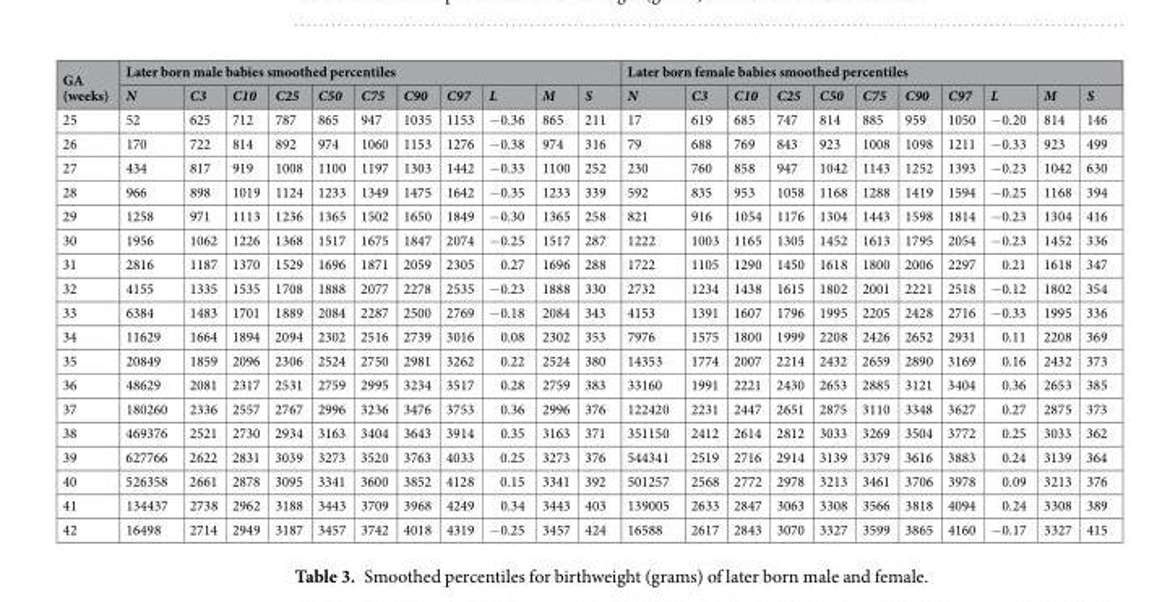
<table><thead><tr><td rowspan="2">GA (weeks)</td><td colspan="11">Later born male babies smoothed percentiles</td><td colspan="11">Later born female babies smoothed percentiles</td></tr><tr><td>N</td><td>C3</td><td>C10</td><td>C25</td><td>C50</td><td>C75</td><td>C90</td><td>C97</td><td>L</td><td>M</td><td>S</td><td>N</td><td>C3</td><td>C10</td><td>C25</td><td>C50</td><td>C75</td><td>C90</td><td>C97</td><td>L</td><td>M</td><td>S</td></tr></thead><tbody><tr><td>25</td><td>52</td><td>625</td><td>712</td><td>787</td><td>865</td><td>947</td><td>1035</td><td>1153</td><td>−0.36</td><td>865</td><td>211</td><td>17</td><td>619</td><td>685</td><td>747</td><td>814</td><td>885</td><td>959</td><td>1050</td><td>−0.20</td><td>814</td><td>146</td></tr><tr><td>26</td><td>170</td><td>722</td><td>814</td><td>892</td><td>974</td><td>1060</td><td>1153</td><td>1276</td><td>−0.38</td><td>974</td><td>316</td><td>79</td><td>688</td><td>769</td><td>843</td><td>923</td><td>1008</td><td>1098</td><td>1211</td><td>−0.33</td><td>923</td><td>499</td></tr><tr><td>27</td><td>434</td><td>817</td><td>919</td><td>1008</td><td>1100</td><td>1197</td><td>1303</td><td>1442</td><td>−0.33</td><td>1100</td><td>252</td><td>230</td><td>760</td><td>858</td><td>947</td><td>1042</td><td>1143</td><td>1252</td><td>1393</td><td>−0.23</td><td>1042</td><td>630</td></tr><tr><td>28</td><td>966</td><td>898</td><td>1019</td><td>1124</td><td>1233</td><td>1349</td><td>1475</td><td>1642</td><td>−0.35</td><td>1233</td><td>339</td><td>592</td><td>835</td><td>953</td><td>1058</td><td>1168</td><td>1288</td><td>1419</td><td>1594</td><td>−0.25</td><td>1168</td><td>394</td></tr><tr><td>29</td><td>1258</td><td>971</td><td>1113</td><td>1236</td><td>1365</td><td>1502</td><td>1650</td><td>1849</td><td>−0.30</td><td>1365</td><td>258</td><td>821</td><td>916</td><td>1054</td><td>1176</td><td>1304</td><td>1443</td><td>1598</td><td>1814</td><td>−0.23</td><td>1304</td><td>416</td></tr><tr><td>30</td><td>1956</td><td>1062</td><td>1226</td><td>1368</td><td>1517</td><td>1675</td><td>1847</td><td>2074</td><td>−0.25</td><td>1517</td><td>287</td><td>1222</td><td>1003</td><td>1165</td><td>1305</td><td>1452</td><td>1613</td><td>1795</td><td>2054</td><td>−0.23</td><td>1452</td><td>336</td></tr><tr><td>31</td><td>2816</td><td>1187</td><td>1370</td><td>1529</td><td>1696</td><td>1871</td><td>2059</td><td>2305</td><td>0.27</td><td>1696</td><td>288</td><td>1722</td><td>1105</td><td>1290</td><td>1450</td><td>1618</td><td>1800</td><td>2006</td><td>2297</td><td>0.21</td><td>1618</td><td>347</td></tr><tr><td>32</td><td>4155</td><td>1335</td><td>1535</td><td>1708</td><td>1888</td><td>2077</td><td>2278</td><td>2535</td><td>−0.23</td><td>1888</td><td>330</td><td>2732</td><td>1234</td><td>1438</td><td>1615</td><td>1802</td><td>2001</td><td>2221</td><td>2518</td><td>−0.12</td><td>1802</td><td>354</td></tr><tr><td>33</td><td>6384</td><td>1483</td><td>1701</td><td>1889</td><td>2084</td><td>2287</td><td>2500</td><td>2769</td><td>−0.18</td><td>2084</td><td>343</td><td>4153</td><td>1391</td><td>1607</td><td>1796</td><td>1995</td><td>2205</td><td>2428</td><td>2716</td><td>−0.33</td><td>1995</td><td>336</td></tr><tr><td>34</td><td>11629</td><td>1664</td><td>1894</td><td>2094</td><td>2302</td><td>2516</td><td>2739</td><td>3016</td><td>0.08</td><td>2302</td><td>353</td><td>7976</td><td>1575</td><td>1800</td><td>1999</td><td>2208</td><td>2426</td><td>2652</td><td>2931</td><td>0.11</td><td>2208</td><td>369</td></tr><tr><td>35</td><td>20849</td><td>1859</td><td>2096</td><td>2306</td><td>2524</td><td>2750</td><td>2981</td><td>3262</td><td>0.22</td><td>2524</td><td>380</td><td>14353</td><td>1774</td><td>2007</td><td>2214</td><td>2432</td><td>2659</td><td>2890</td><td>3169</td><td>0.16</td><td>2432</td><td>373</td></tr><tr><td>36</td><td>48629</td><td>2081</td><td>2317</td><td>2531</td><td>2759</td><td>2995</td><td>3234</td><td>3517</td><td>0.28</td><td>2759</td><td>383</td><td>33160</td><td>1991</td><td>2221</td><td>2430</td><td>2653</td><td>2885</td><td>3121</td><td>3404</td><td>0.36</td><td>2653</td><td>385</td></tr><tr><td>37</td><td>180260</td><td>2336</td><td>2557</td><td>2767</td><td>2996</td><td>3236</td><td>3476</td><td>3753</td><td>0.36</td><td>2996</td><td>376</td><td>122420</td><td>2231</td><td>2447</td><td>2651</td><td>2875</td><td>3110</td><td>3348</td><td>3627</td><td>0.27</td><td>2875</td><td>373</td></tr><tr><td>38</td><td>469376</td><td>2521</td><td>2730</td><td>2934</td><td>3163</td><td>3404</td><td>3643</td><td>3914</td><td>0.35</td><td>3163</td><td>371</td><td>351150</td><td>2412</td><td>2614</td><td>2812</td><td>3033</td><td>3269</td><td>3504</td><td>3772</td><td>0.25</td><td>3033</td><td>362</td></tr><tr><td>39</td><td>627766</td><td>2622</td><td>2831</td><td>3039</td><td>3273</td><td>3520</td><td>3763</td><td>4033</td><td>0.25</td><td>3273</td><td>376</td><td>544341</td><td>2519</td><td>2716</td><td>2914</td><td>3139</td><td>3379</td><td>3616</td><td>3883</td><td>0.24</td><td>3139</td><td>364</td></tr><tr><td>40</td><td>526358</td><td>2661</td><td>2878</td><td>3095</td><td>3341</td><td>3600</td><td>3852</td><td>4128</td><td>0.15</td><td>3341</td><td>392</td><td>501257</td><td>2568</td><td>2772</td><td>2978</td><td>3213</td><td>3461</td><td>3706</td><td>3978</td><td>0.09</td><td>3213</td><td>376</td></tr><tr><td>41</td><td>134437</td><td>2738</td><td>2962</td><td>3188</td><td>3443</td><td>3709</td><td>3968</td><td>4249</td><td>0.34</td><td>3443</td><td>403</td><td>139005</td><td>2633</td><td>2847</td><td>3063</td><td>3308</td><td>3566</td><td>3818</td><td>4094</td><td>0.24</td><td>3308</td><td>389</td></tr><tr><td>42</td><td>16498</td><td>2714</td><td>2949</td><td>3187</td><td>3457</td><td>3742</td><td>4018</td><td>4319</td><td>−0.25</td><td>3457</td><td>424</td><td>16588</td><td>2617</td><td>2843</td><td>3070</td><td>3327</td><td>3599</td><td>3865</td><td>4160</td><td>−0.17</td><td>3327</td><td>415</td></tr></tbody></table>